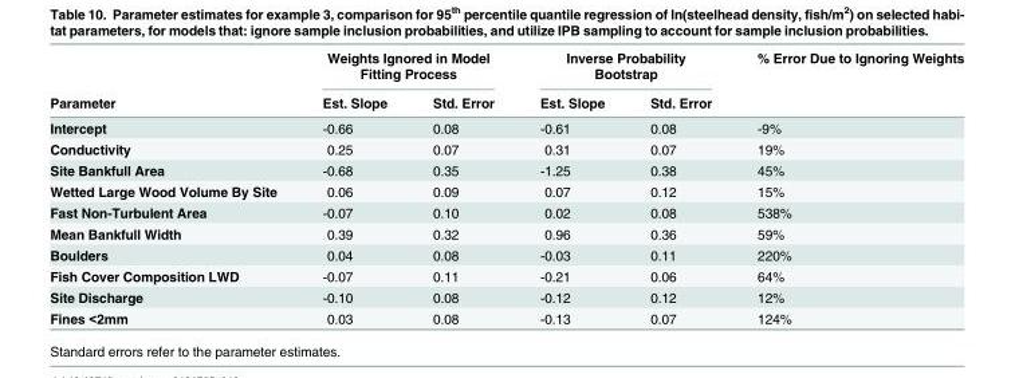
<table><thead><tr><td rowspan="2">Parameter</td><td colspan="2">Weights Ignored in Model Fitting Process</td><td colspan="2">Inverse Probability Bootstrap</td><td rowspan="2">% Error Due to Ignoring Weights</td></tr><tr><td>Est. Slope</td><td>Std. Error</td><td>Est. Slope</td><td>Std. Error</td></tr></thead><tbody><tr><td>Intercept</td><td>-0.66</td><td>0.08</td><td>-0.61</td><td>0.08</td><td>-9%</td></tr><tr><td>Conductivity</td><td>0.25</td><td>0.07</td><td>0.31</td><td>0.07</td><td>19%</td></tr><tr><td>Site Bankfull Area</td><td>-0.68</td><td>0.35</td><td>-1.25</td><td>0.38</td><td>45%</td></tr><tr><td>Wetted Large Wood Volume By Site</td><td>0.06</td><td>0.09</td><td>0.07</td><td>0.12</td><td>15%</td></tr><tr><td>Fast Non-Turbulent Area</td><td>-0.07</td><td>0.10</td><td>0.02</td><td>0.08</td><td>538%</td></tr><tr><td>Mean Bankfull Width</td><td>0.39</td><td>0.32</td><td>0.96</td><td>0.36</td><td>59%</td></tr><tr><td>Boulders</td><td>0.04</td><td>0.08</td><td>-0.03</td><td>0.11</td><td>220%</td></tr><tr><td>Fish Cover Composition LWD</td><td>-0.07</td><td>0.11</td><td>-0.21</td><td>0.06</td><td>64%</td></tr><tr><td>Site Discharge</td><td>-0.10</td><td>0.08</td><td>-0.12</td><td>0.12</td><td>12%</td></tr><tr><td>Fines &lt;2mm</td><td>0.03</td><td>0.08</td><td>-0.13</td><td>0.07</td><td>124%</td></tr></tbody></table>